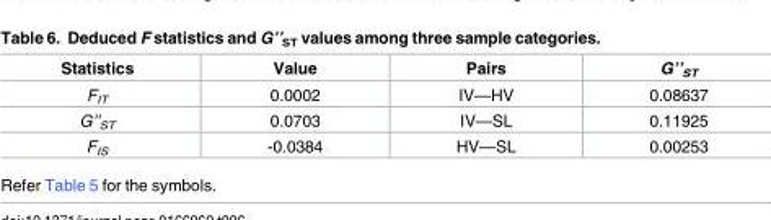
<table><thead><tr><td>Statistics</td><td>Value</td><td>Pairs</td><td>G’’<sub>ST</sub></td></tr></thead><tbody><tr><td>F<sub>IT</sub></td><td>0.0002</td><td>IV—HV</td><td>0.08637</td></tr><tr><td>G’’<sub>ST</sub></td><td>0.0703</td><td>IV—SL</td><td>0.11925</td></tr><tr><td>F<sub>IS</sub></td><td>-0.0384</td><td>HV—SL</td><td>0.00253</td></tr></tbody></table>